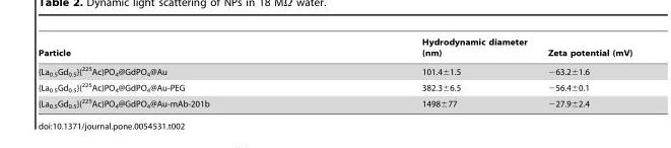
<table><thead><tr><td>Particle</td><td>Hydrodynamic diameter (nm)</td><td>Zeta potential (mV)</td></tr></thead><tbody><tr><td>{La<sub>0.5</sub>Gd<sub>0.5</sub>}(<sup>225</sup>Ac)PO<sub>4</sub>@GdPO<sub>4</sub>@Au</td><td>101.4±1.5</td><td>−63.2±1.6</td></tr><tr><td>{La<sub>0.5</sub>Gd<sub>0.5</sub>}(<sup>225</sup>Ac)PO<sub>4</sub>@GdPO<sub>4</sub>@Au-PEG</td><td>382.3±6.5</td><td>−56.4±0.1</td></tr><tr><td>{La<sub>0.5</sub>Gd<sub>0.5</sub>}(<sup>225</sup>Ac)PO<sub>4</sub>@GdPO<sub>4</sub>@Au-mAb-201b</td><td>1498±77</td><td>−27.9±2.4</td></tr></tbody></table>